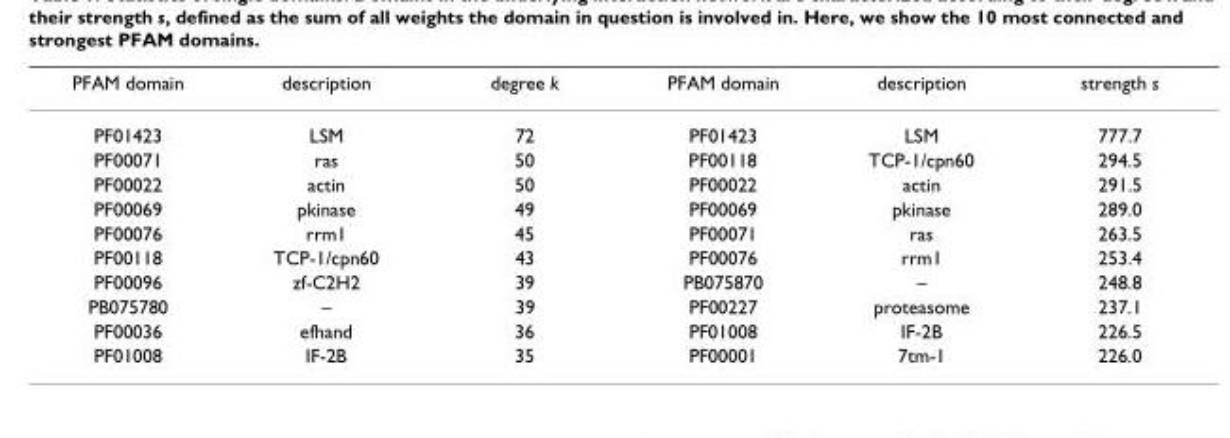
<table><thead><tr><td>PFAM domain</td><td>description</td><td>degree k</td><td>PFAM domain</td><td>description</td><td>strength s</td></tr></thead><tbody><tr><td>PF01423</td><td>LSM</td><td>72</td><td>PF01423</td><td>LSM</td><td>777.7</td></tr><tr><td>PF00071</td><td>ras</td><td>50</td><td>PF00118</td><td>TCP-1/cpn60</td><td>294.5</td></tr><tr><td>PF00022</td><td>actin</td><td>50</td><td>PF00022</td><td>actin</td><td>291.5</td></tr><tr><td>PF00069</td><td>pkinase</td><td>49</td><td>PF00069</td><td>pkinase</td><td>289.0</td></tr><tr><td>PF00076</td><td>rrm1</td><td>45</td><td>PF00071</td><td>ras</td><td>263.5</td></tr><tr><td>PF00118</td><td>TCP-1/cpn60</td><td>43</td><td>PF00076</td><td>rrm1</td><td>253.4</td></tr><tr><td>PF00096</td><td>zf-C2H2</td><td>39</td><td>PB075870</td><td>–</td><td>248.8</td></tr><tr><td>PB075780</td><td>–</td><td>39</td><td>PF00227</td><td>proteasome</td><td>237.1</td></tr><tr><td>PF00036</td><td>efhand</td><td>36</td><td>PF01008</td><td>IF-2B</td><td>226.5</td></tr><tr><td>PF01008</td><td>IF-2B</td><td>35</td><td>PF00001</td><td>7tm-1</td><td>226.0</td></tr></tbody></table>